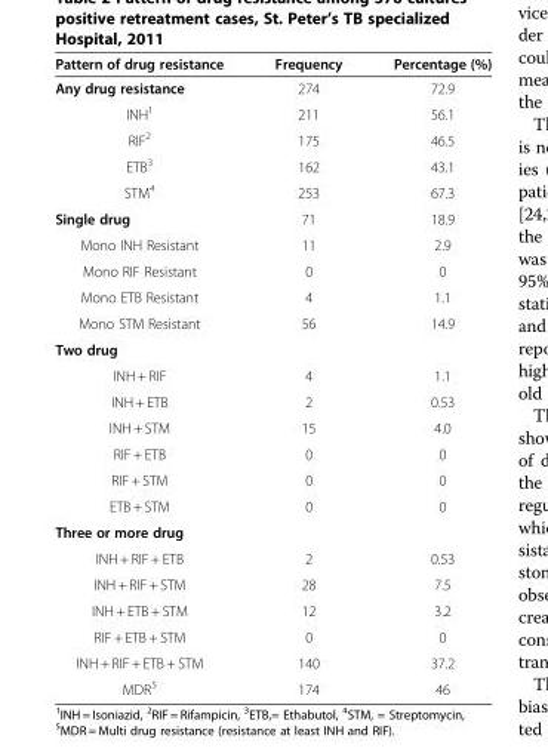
<table><thead><tr><td>Pattern of drug resistance</td><td>Frequency</td><td>Percentage (%)</td></tr></thead><tbody><tr><td>Any drug resistance</td><td>274</td><td>72.9</td></tr><tr><td>INH<sup>1</sup></td><td>211</td><td>56.1</td></tr><tr><td>RIF<sup>2</sup></td><td>175</td><td>46.5</td></tr><tr><td>ETB<sup>3</sup></td><td>162</td><td>43.1</td></tr><tr><td>STM<sup>4</sup></td><td>253</td><td>67.3</td></tr><tr><td>Single drug</td><td>71</td><td>18.9</td></tr><tr><td>Mono INH Resistant</td><td>11</td><td>2.9</td></tr><tr><td>Mono RIF Resistant</td><td>0</td><td>0</td></tr><tr><td>Mono ETB Resistant</td><td>4</td><td>1.1</td></tr><tr><td>Mono STM Resistant</td><td>56</td><td>14.9</td></tr><tr><td colspan="3">Two drug</td></tr><tr><td>INH + RIF</td><td>4</td><td>1.1</td></tr><tr><td>INH + ETB</td><td>2</td><td>0.53</td></tr><tr><td>INH + STM</td><td>15</td><td>4.0</td></tr><tr><td>RIF + ETB</td><td>0</td><td>0</td></tr><tr><td>RIF + STM</td><td>0</td><td>0</td></tr><tr><td>ETB + STM</td><td>0</td><td>0</td></tr><tr><td colspan="3">Three or more drug</td></tr><tr><td>INH + RIF + ETB</td><td>2</td><td>0.53</td></tr><tr><td>INH + RIF + STM</td><td>28</td><td>7.5</td></tr><tr><td>INH + ETB + STM</td><td>12</td><td>3.2</td></tr><tr><td>RIF + ETB + STM</td><td>0</td><td>0</td></tr><tr><td>INH + RIF + ETB + STM</td><td>140</td><td>37.2</td></tr><tr><td>MDR<sup>5</sup></td><td>174</td><td>46</td></tr></tbody></table>